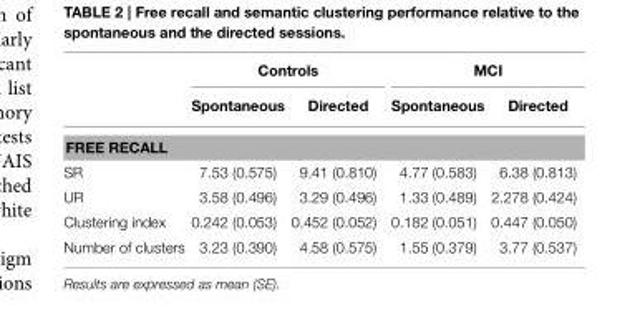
<table><thead><tr><td rowspan="2"></td><td colspan="2">Controls</td><td colspan="2">MCI</td></tr><tr><td>Spontaneous</td><td>Directed</td><td>Spontaneous</td><td>Directed</td></tr></thead><tbody><tr><td colspan="5">FREE RECALL</td></tr><tr><td>SR</td><td>7.53 (0.575)</td><td>9.41 (0.810)</td><td>4.77 (0.583)</td><td>6.38 (0.813)</td></tr><tr><td>UR</td><td>3.58 (0.496)</td><td>3.29 (0.496)</td><td>1.33 (0.489)</td><td>2.278 (0.424)</td></tr><tr><td>Clustering index</td><td>0.242 (0.053)</td><td>0.452 (0.052)</td><td>0.182 (0.051)</td><td>0.447 (0.050)</td></tr><tr><td>Number of clusters</td><td>3.23 (0.390)</td><td>4.58 (0.575)</td><td>1.55 (0.379)</td><td>3.77 (0.537)</td></tr></tbody></table>